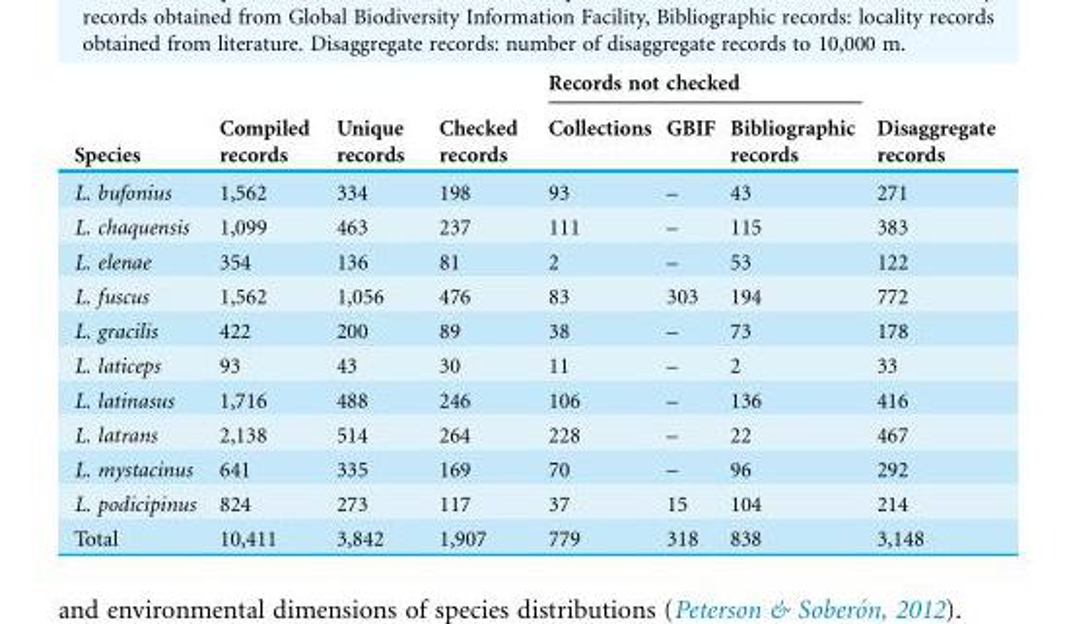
<table><thead><tr><td rowspan="2">Species</td><td rowspan="2">Compiled records</td><td rowspan="2">Unique records</td><td rowspan="2">Checked records</td><td colspan="3">Records not checked</td><td rowspan="2">Disaggregate records</td></tr><tr><td>Collections</td><td>GBIF</td><td>Bibliographic records</td></tr></thead><tbody><tr><td>L. bufonius</td><td>1,562</td><td>334</td><td>198</td><td>93</td><td>–</td><td>43</td><td>271</td></tr><tr><td>L. chaquensis</td><td>1,099</td><td>463</td><td>237</td><td>111</td><td>–</td><td>115</td><td>383</td></tr><tr><td>L. elenae</td><td>354</td><td>136</td><td>81</td><td>2</td><td>–</td><td>53</td><td>122</td></tr><tr><td>L. fuscus</td><td>1,562</td><td>1,056</td><td>476</td><td>83</td><td>303</td><td>194</td><td>772</td></tr><tr><td>L. gracilis</td><td>422</td><td>200</td><td>89</td><td>38</td><td>–</td><td>73</td><td>178</td></tr><tr><td>L. laticeps</td><td>93</td><td>43</td><td>30</td><td>11</td><td>–</td><td>2</td><td>33</td></tr><tr><td>L. latinasus</td><td>1,716</td><td>488</td><td>246</td><td>106</td><td>–</td><td>136</td><td>416</td></tr><tr><td>L. latrans</td><td>2,138</td><td>514</td><td>264</td><td>228</td><td>–</td><td>22</td><td>467</td></tr><tr><td>L. mystacinus</td><td>641</td><td>335</td><td>169</td><td>70</td><td>–</td><td>96</td><td>292</td></tr><tr><td>L. podicipinus</td><td>824</td><td>273</td><td>117</td><td>37</td><td>15</td><td>104</td><td>214</td></tr><tr><td>Total</td><td>10,411</td><td>3,842</td><td>1,907</td><td>779</td><td>318</td><td>838</td><td>3,148</td></tr></tbody></table>